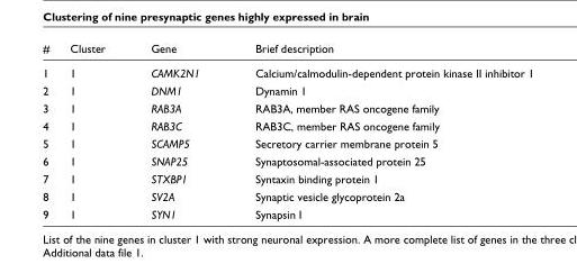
<table><thead><tr><td>#</td><td>Cluster</td><td>Gene</td><td>Brief description</td></tr></thead><tbody><tr><td>1</td><td>1</td><td>CAMK2N1</td><td>Calcium/calmodulin-dependent protein kinase II inhibitor 1</td></tr><tr><td>2</td><td>1</td><td>DNM1</td><td>Dynamin 1</td></tr><tr><td>3</td><td>1</td><td>RAB3A</td><td>RAB3A, member RAS oncogene family</td></tr><tr><td>4</td><td>1</td><td>RAB3C</td><td>RAB3C, member RAS oncogene family</td></tr><tr><td>5</td><td>1</td><td>SCAMP5</td><td>Secretory carrier membrane protein 5</td></tr><tr><td>6</td><td>1</td><td>SNAP25</td><td>Synaptosomal-associated protein 25</td></tr><tr><td>7</td><td>1</td><td>STXBP1</td><td>Syntaxin binding protein 1</td></tr><tr><td>8</td><td>1</td><td>SV2A</td><td>Synaptic vesicle glycoprotein 2a</td></tr><tr><td>9</td><td>1</td><td>SYN1</td><td>Synapsin I</td></tr></tbody></table>